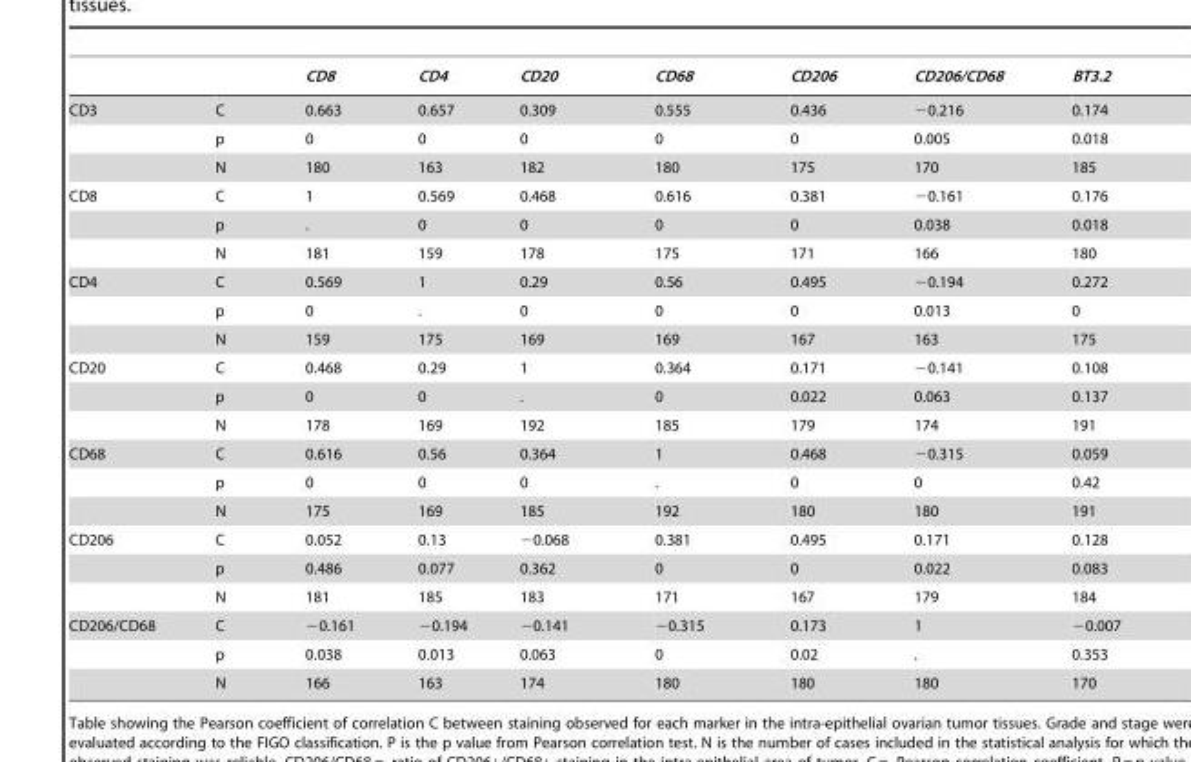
<table><thead><tr><td></td><td></td><td>CD8</td><td>CD4</td><td>CD20</td><td>CD68</td><td>CD206</td><td>CD206/CD68</td><td>BT3.2</td></tr></thead><tbody><tr><td rowspan="3">CD3</td><td>C</td><td>0.663</td><td>0.657</td><td>0.309</td><td>0.555</td><td>0.436</td><td>−0.216</td><td>0.174</td></tr><tr><td>p</td><td>0</td><td>0</td><td>0</td><td>0</td><td>0</td><td>0.005</td><td>0.018</td></tr><tr><td>N</td><td>180</td><td>163</td><td>182</td><td>180</td><td>175</td><td>170</td><td>185</td></tr><tr><td rowspan="3">CD8</td><td>C</td><td>1</td><td>0.569</td><td>0.468</td><td>0.616</td><td>0.381</td><td>−0.161</td><td>0.176</td></tr><tr><td>p</td><td>.</td><td>0</td><td>0</td><td>0</td><td>0</td><td>0.038</td><td>0.018</td></tr><tr><td>N</td><td>181</td><td>159</td><td>178</td><td>175</td><td>171</td><td>166</td><td>180</td></tr><tr><td rowspan="3">CD4</td><td>C</td><td>0.569</td><td>1</td><td>0.29</td><td>0.56</td><td>0.495</td><td>−0.194</td><td>0.272</td></tr><tr><td>p</td><td>0</td><td>.</td><td>0</td><td>0</td><td>0</td><td>0.013</td><td>0</td></tr><tr><td>N</td><td>159</td><td>175</td><td>169</td><td>169</td><td>167</td><td>163</td><td>175</td></tr><tr><td rowspan="3">CD20</td><td>C</td><td>0.468</td><td>0.29</td><td>1</td><td>0.364</td><td>0.171</td><td>−0.141</td><td>0.108</td></tr><tr><td>p</td><td>0</td><td>0</td><td>.</td><td>0</td><td>0.022</td><td>0.063</td><td>0.137</td></tr><tr><td>N</td><td>178</td><td>169</td><td>192</td><td>185</td><td>179</td><td>174</td><td>191</td></tr><tr><td rowspan="3">CD68</td><td>C</td><td>0.616</td><td>0.56</td><td>0.364</td><td>1</td><td>0.468</td><td>−0.315</td><td>0.059</td></tr><tr><td>p</td><td>0</td><td>0</td><td>0</td><td>.</td><td>0</td><td>0</td><td>0.42</td></tr><tr><td>N</td><td>175</td><td>169</td><td>185</td><td>192</td><td>180</td><td>180</td><td>191</td></tr><tr><td rowspan="3">CD206</td><td>C</td><td>0.052</td><td>0.13</td><td>−0.068</td><td>0.381</td><td>0.495</td><td>0.171</td><td>0.128</td></tr><tr><td>p</td><td>0.486</td><td>0.077</td><td>0.362</td><td>0</td><td>0</td><td>0.022</td><td>0.083</td></tr><tr><td>N</td><td>181</td><td>185</td><td>183</td><td>171</td><td>167</td><td>179</td><td>184</td></tr><tr><td rowspan="3">CD206/CD68</td><td>C</td><td>−0.161</td><td>−0.194</td><td>−0.141</td><td>−0.315</td><td>0.173</td><td>1</td><td>−0.007</td></tr><tr><td>p</td><td>0.038</td><td>0.013</td><td>0.063</td><td>0</td><td>0.02</td><td>.</td><td>0.353</td></tr><tr><td>N</td><td>166</td><td>163</td><td>174</td><td>180</td><td>180</td><td>180</td><td>170</td></tr></tbody></table>